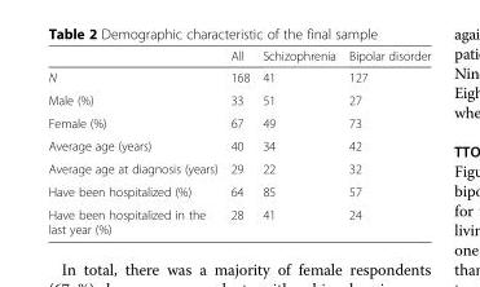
<table><thead><tr><td></td><td>All</td><td>Schizophrenia</td><td>Bipolar disorder</td></tr></thead><tbody><tr><td>N</td><td>168</td><td>41</td><td>127</td></tr><tr><td>Male (%)</td><td>33</td><td>51</td><td>27</td></tr><tr><td>Female (%)</td><td>67</td><td>49</td><td>73</td></tr><tr><td>Average age (years)</td><td>40</td><td>34</td><td>42</td></tr><tr><td>Average age at diagnosis (years)</td><td>29</td><td>22</td><td>32</td></tr><tr><td>Have been hospitalized (%)</td><td>64</td><td>85</td><td>57</td></tr><tr><td>Have been hospitalized in the last year (%)</td><td>28</td><td>41</td><td>24</td></tr></tbody></table>